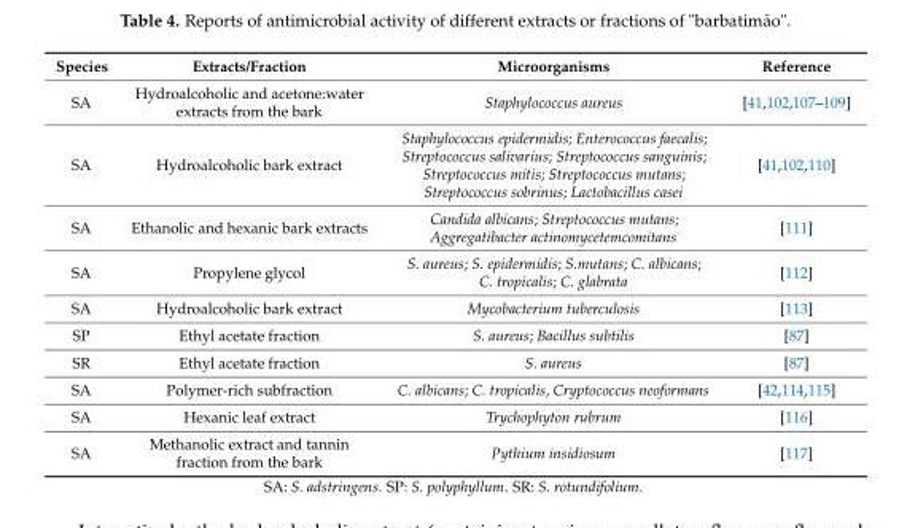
<table><thead><tr><td>Species</td><td>Extracts/Fraction</td><td>Microorganisms</td><td>Reference</td></tr></thead><tbody><tr><td>SA</td><td>Hydroalcoholic and acetone:water extracts from the bark</td><td>Staphylococcus aureus</td><td>[41,102,107–109]</td></tr><tr><td>SA</td><td>Hydroalcoholic bark extract</td><td>Staphylococcus epidermidis; Enterococcus faecalis; Streptococcus salivarius; Streptococcus sanguinis; Streptococcus mitis; Streptococcus mutans; Streptococcus sobrinus; Lactobacillus casei</td><td>[41,102,110]</td></tr><tr><td>SA</td><td>Ethanolic and hexanic bark extracts</td><td>Candida albicans; Streptococcus mutans; Aggregatibacter actinomycetemcomitans</td><td>[111]</td></tr><tr><td>SA</td><td>Propylene glycol</td><td>S. aureus; S. epidermidis; S.mutans; C. albicans; C. tropicalis; C. glabrata</td><td>[112]</td></tr><tr><td>SA</td><td>Hydroalcoholic bark extract</td><td>Mycobacterium tuberculosis</td><td>[113]</td></tr><tr><td>SP</td><td>Ethyl acetate fraction</td><td>S. aureus; Bacillus subtilis</td><td>[87]</td></tr><tr><td>SR</td><td>Ethyl acetate fraction</td><td>S. aureus</td><td>[87]</td></tr><tr><td>SA</td><td>Polymer-rich subfraction</td><td>C. albicans; C. tropicalis, Cryptococcus neoformans</td><td>[42,114,115]</td></tr><tr><td>SA</td><td>Hexanic leaf extract</td><td>Trychophyton rubrum</td><td>[116]</td></tr><tr><td>SA</td><td>Methanolic extract and tannin fraction from the bark</td><td>Pythium insidiosum</td><td>[117]</td></tr></tbody></table>